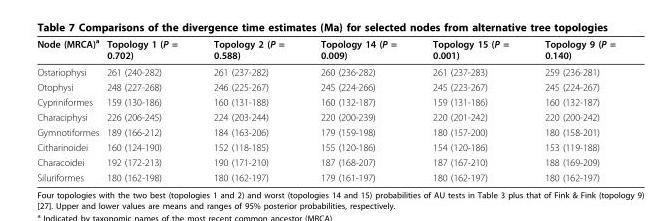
<table><thead><tr><td>Node (MRCA)<sup>a</sup></td><td>Topology 1 (P = 0.702)</td><td>Topology 2 (P = 0.588)</td><td>Topology 14 (P = 0.009)</td><td>Topology 15 (P = 0.001)</td><td>Topology 9 (P = 0.140)</td></tr></thead><tbody><tr><td>Ostariophysi</td><td>261 (240-282)</td><td>261 (237-282)</td><td>260 (236-282)</td><td>261 (237-283)</td><td>259 (236-281)</td></tr><tr><td>Otophysi</td><td>248 (227-268)</td><td>246 (225-267)</td><td>245 (224-266)</td><td>245 (223-267)</td><td>245 (224-267)</td></tr><tr><td>Cypriniformes</td><td>159 (130-186)</td><td>160 (131-188)</td><td>160 (132-187)</td><td>159 (131-186)</td><td>160 (132-187)</td></tr><tr><td>Characiphysi</td><td>226 (206-245)</td><td>224 (203-244)</td><td>220 (200-239)</td><td>220 (201-242)</td><td>220 (200-242)</td></tr><tr><td>Gymnotiformes</td><td>189 (166-212)</td><td>184 (163-206)</td><td>179 (159-198)</td><td>180 (157-200)</td><td>180 (158-201)</td></tr><tr><td>Citharinoidei</td><td>160 (124-190)</td><td>152 (118-185)</td><td>155 (120-186)</td><td>154 (120-186)</td><td>153 (119-188)</td></tr><tr><td>Characoidei</td><td>192 (172-213)</td><td>190 (171-210)</td><td>187 (168-207)</td><td>187 (167-210)</td><td>188 (169-209)</td></tr><tr><td>Siluriformes</td><td>180 (162-198)</td><td>180 (162-197)</td><td>179 (161-197)</td><td>180 (162-197)</td><td>180 (162-197)</td></tr></tbody></table>